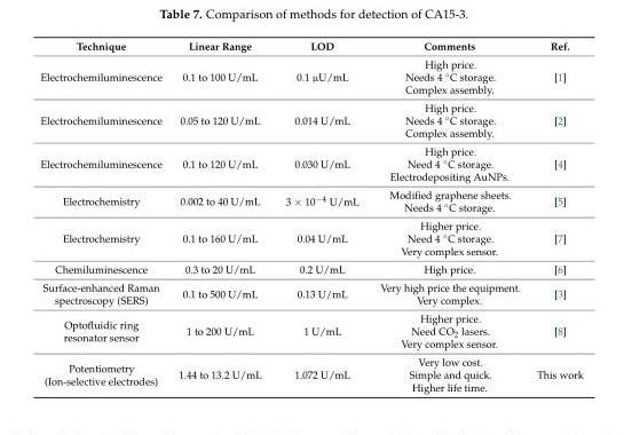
<table><thead><tr><td>Technique</td><td>Linear Range</td><td>LOD</td><td>Comments</td><td>Ref.</td></tr></thead><tbody><tr><td>Electrochemiluminescence</td><td>0.1 to 100 U/mL</td><td>0.1 µU/mL</td><td>High price. Needs 4 ◦C storage. Complex assembly.</td><td>[1]</td></tr><tr><td>Electrochemiluminescence</td><td>0.05 to 120 U/mL</td><td>0.014 U/mL</td><td>High price. Needs 4 ◦C storage. Complex assembly.</td><td>[2]</td></tr><tr><td>Electrochemiluminescence</td><td>0.1 to 120 U/mL</td><td>0.030 U/mL</td><td>High price. Need 4 ◦C storage. Electrodepositing AuNPs.</td><td>[4]</td></tr><tr><td>Electrochemistry</td><td>0.002 to 40 U/mL</td><td>3 × 10<sup>−4</sup> U/mL</td><td>Modified graphene sheets. Needs 4 ◦C storage.</td><td>[5]</td></tr><tr><td>Electrochemistry</td><td>0.1 to 160 U/mL</td><td>0.04 U/mL</td><td>Higher price. Need 4 ◦C storage. Very complex sensor.</td><td>[7]</td></tr><tr><td>Chemiluminescence</td><td>0.3 to 20 U/mL</td><td>0.2 U/mL</td><td>High price.</td><td>[6]</td></tr><tr><td>Surface-enhanced Raman spectroscopy (SERS)</td><td>0.1 to 500 U/mL</td><td>0.13 U/mL</td><td>Very high price the equipment. Very complex.</td><td>[3]</td></tr><tr><td>Optofluidic ring resonator sensor</td><td>1 to 200 U/mL</td><td>1 U/mL</td><td>Higher price. Need CO<sub>2</sub> lasers. Very complex sensor.</td><td>[8]</td></tr><tr><td>Potentiometry (Ion-selective electrodes)</td><td>1.44 to 13.2 U/mL</td><td>1.072 U/mL</td><td>Very low cost. Simple and quick. Higher life time.</td><td>This work</td></tr></tbody></table>